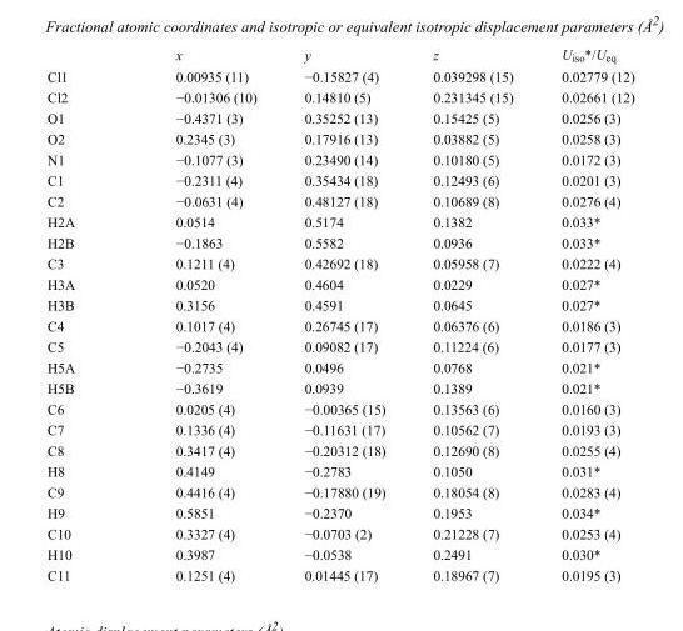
<table><thead><tr><td></td><td>x</td><td>y</td><td>z</td><td>U<sub>iso</sub>*/U<sub>eq</sub></td></tr></thead><tbody><tr><td>Cl1</td><td>0.00935 (11)</td><td>−0.15827 (4)</td><td>0.039298 (15)</td><td>0.02779 (12)</td></tr><tr><td>Cl2</td><td>−0.01306 (10)</td><td>0.14810 (5)</td><td>0.231345 (15)</td><td>0.02661 (12)</td></tr><tr><td>O1</td><td>−0.4371 (3)</td><td>0.35252 (13)</td><td>0.15425 (5)</td><td>0.0256 (3)</td></tr><tr><td>O2</td><td>0.2345 (3)</td><td>0.17916 (13)</td><td>0.03882 (5)</td><td>0.0258 (3)</td></tr><tr><td>N1</td><td>−0.1077 (3)</td><td>0.23490 (14)</td><td>0.10180 (5)</td><td>0.0172 (3)</td></tr><tr><td>C1</td><td>−0.2311 (4)</td><td>0.35434 (18)</td><td>0.12493 (6)</td><td>0.0201 (3)</td></tr><tr><td>C2</td><td>−0.0631 (4)</td><td>0.48127 (18)</td><td>0.10689 (8)</td><td>0.0276 (4)</td></tr><tr><td>H2A</td><td>0.0514</td><td>0.5174</td><td>0.1382</td><td>0.033*</td></tr><tr><td>H2B</td><td>−0.1863</td><td>0.5582</td><td>0.0936</td><td>0.033*</td></tr><tr><td>C3</td><td>0.1211 (4)</td><td>0.42692 (18)</td><td>0.05958 (7)</td><td>0.0222 (4)</td></tr><tr><td>H3A</td><td>0.0520</td><td>0.4604</td><td>0.0229</td><td>0.027*</td></tr><tr><td>H3B</td><td>0.3156</td><td>0.4591</td><td>0.0645</td><td>0.027*</td></tr><tr><td>C4</td><td>0.1017 (4)</td><td>0.26745 (17)</td><td>0.06376 (6)</td><td>0.0186 (3)</td></tr><tr><td>C5</td><td>−0.2043 (4)</td><td>0.09082 (17)</td><td>0.11224 (6)</td><td>0.0177 (3)</td></tr><tr><td>H5A</td><td>−0.2735</td><td>0.0496</td><td>0.0768</td><td>0.021*</td></tr><tr><td>H5B</td><td>−0.3619</td><td>0.0939</td><td>0.1389</td><td>0.021*</td></tr><tr><td>C6</td><td>0.0205 (4)</td><td>−0.00365 (15)</td><td>0.13563 (6)</td><td>0.0160 (3)</td></tr><tr><td>C7</td><td>0.1336 (4)</td><td>−0.11631 (17)</td><td>0.10562 (7)</td><td>0.0193 (3)</td></tr><tr><td>C8</td><td>0.3417 (4)</td><td>−0.20312 (18)</td><td>0.12690 (8)</td><td>0.0255 (4)</td></tr><tr><td>H8</td><td>0.4149</td><td>−0.2783</td><td>0.1050</td><td>0.031*</td></tr><tr><td>C9</td><td>0.4416 (4)</td><td>−0.17880 (19)</td><td>0.18054 (8)</td><td>0.0283 (4)</td></tr><tr><td>H9</td><td>0.5851</td><td>−0.2370</td><td>0.1953</td><td>0.034*</td></tr><tr><td>C10</td><td>0.3327 (4)</td><td>−0.0703 (2)</td><td>0.21228 (7)</td><td>0.0253 (4)</td></tr><tr><td>H10</td><td>0.3987</td><td>−0.0538</td><td>0.2491</td><td>0.030*</td></tr><tr><td>C11</td><td>0.1251 (4)</td><td>0.01445 (17)</td><td>0.18967 (7)</td><td>0.0195 (3)</td></tr></tbody></table>